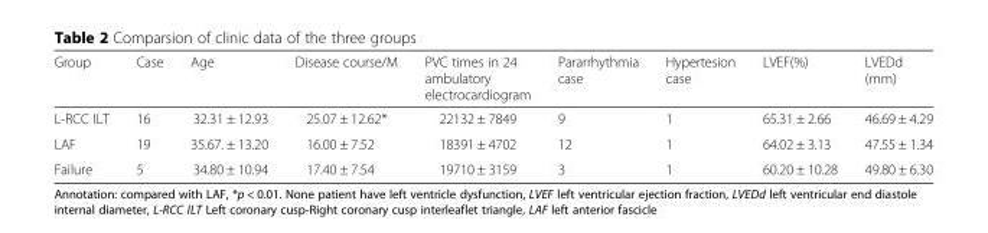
<table><thead><tr><td>Group</td><td>Case</td><td>Age</td><td>Disease course/M</td><td>PVC times in 24 ambulatory electrocardiogram</td><td>Pararrhythmia case</td><td>Hypertesion case</td><td>LVEF(%)</td><td>LVEDd (mm)</td></tr></thead><tbody><tr><td>L-RCC ILT</td><td>16</td><td>32.31 ± 12.93</td><td>25.07 ± 12.62*</td><td>22132 ± 7849</td><td>9</td><td>1</td><td>65.31 ± 2.66</td><td>46.69 ± 4.29</td></tr><tr><td>LAF</td><td>19</td><td>35.67. ± 13.20</td><td>16.00 ± 7.52</td><td>18391 ± 4702</td><td>12</td><td>1</td><td>64.02 ± 3.13</td><td>47.55 ± 1.34</td></tr><tr><td>Failure</td><td>5</td><td>34.80 ± 10.94</td><td>17.40 ± 7.54</td><td>19710 ± 3159</td><td>3</td><td>1</td><td>60.20 ± 10.28</td><td>49.80 ± 6.30</td></tr></tbody></table>